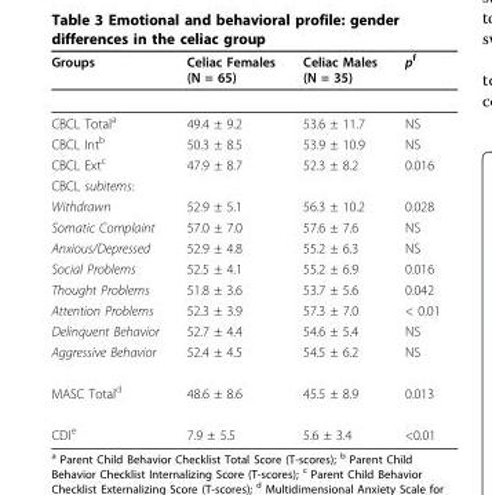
<table><thead><tr><td>Groups</td><td>Celiac Females (N = 65)</td><td>Celiac Males (N = 35)</td><td>p<sup>f</sup></td></tr></thead><tbody><tr><td>CBCL Total<sup>a</sup></td><td>49.4 ± 9.2</td><td>53.6 ± 11.7</td><td>NS</td></tr><tr><td>CBCL Int<sup>b</sup></td><td>50.3 ± 8.5</td><td>53.9 ± 10.9</td><td>NS</td></tr><tr><td>CBCL Ext<sup>c</sup></td><td>47.9 ± 8.7</td><td>52.3 ± 8.2</td><td>0.016</td></tr><tr><td colspan="4">CBCL subitems:</td></tr><tr><td>Withdrawn</td><td>52.9 ± 5.1</td><td>56.3 ± 10.2</td><td>0.028</td></tr><tr><td>Somatic Complaint</td><td>57.0 ± 7.0</td><td>57.6 ± 7.6</td><td>NS</td></tr><tr><td>Anxious/Depressed</td><td>52.9 ± 4.8</td><td>55.2 ± 6.3</td><td>NS</td></tr><tr><td>Social Problems</td><td>52.5 ± 4.1</td><td>55.2 ± 6.9</td><td>0.016</td></tr><tr><td>Thought Problems</td><td>51.8 ± 3.6</td><td>53.7 ± 5.6</td><td>0.042</td></tr><tr><td>Attention Problems</td><td>52.3 ± 3.9</td><td>57.3 ± 7.0</td><td>&lt; 0.01</td></tr><tr><td>Delinquent Behavior</td><td>52.7 ± 4.4</td><td>54.6 ± 5.4</td><td>NS</td></tr><tr><td>Aggressive Behavior</td><td>52.4 ± 4.5</td><td>54.5 ± 6.2</td><td>NS</td></tr><tr><td>MASC Total<sup>d</sup></td><td>48.6 ± 8.6</td><td>45.5 ± 8.9</td><td>0.013</td></tr><tr><td>CDI<sup>e</sup></td><td>7.9 ± 5.5</td><td>5.6 ± 3.4</td><td>&lt;0.01</td></tr></tbody></table>